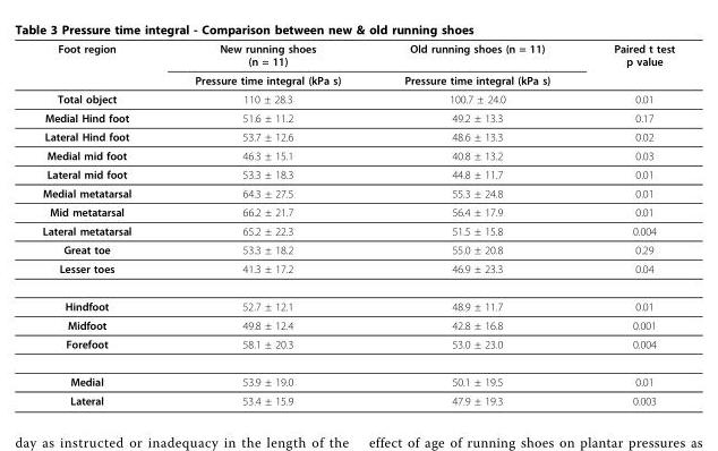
<table><thead><tr><td rowspan="2">Foot region</td><td rowspan="2">New running shoes (n = 11) Pressure time integral (kPa s)</td><td rowspan="2">Old running shoes (n = 11) Pressure time integral (kPa s)</td><td rowspan="2">Paired t test p value</td></tr><tr></tr></thead><tbody><tr><td>Total object</td><td>110 ± 28.3</td><td>100.7 ± 24.0</td><td>0.01</td></tr><tr><td>Medial Hind foot</td><td>51.6 ± 11.2</td><td>49.2 ± 13.3</td><td>0.17</td></tr><tr><td>Lateral Hind foot</td><td>53.7 ± 12.6</td><td>48.6 ± 13.3</td><td>0.02</td></tr><tr><td>Medial mid foot</td><td>46.3 ± 15.1</td><td>40.8 ± 13.2</td><td>0.03</td></tr><tr><td>Lateral mid foot</td><td>53.3 ± 18.3</td><td>44.8 ± 11.7</td><td>0.01</td></tr><tr><td>Medial metatarsal</td><td>64.3 ± 27.5</td><td>55.3 ± 24.8</td><td>0.01</td></tr><tr><td>Mid metatarsal</td><td>66.2 ± 21.7</td><td>56.4 ± 17.9</td><td>0.01</td></tr><tr><td>Lateral metatarsal</td><td>65.2 ± 22.3</td><td>51.5 ± 15.8</td><td>0.004</td></tr><tr><td>Great toe</td><td>53.3 ± 18.2</td><td>55.0 ± 20.8</td><td>0.29</td></tr><tr><td>Lesser toes</td><td>41.3 ± 17.2</td><td>46.9 ± 23.3</td><td>0.04</td></tr><tr><td>Hindfoot</td><td>52.7 ± 12.1</td><td>48.9 ± 11.7</td><td>0.01</td></tr><tr><td>Midfoot</td><td>49.8 ± 12.4</td><td>42.8 ± 16.8</td><td>0.001</td></tr><tr><td>Forefoot</td><td>58.1 ± 20.3</td><td>53.0 ± 23.0</td><td>0.004</td></tr><tr><td>Medial</td><td>53.9 ± 19.0</td><td>50.1 ± 19.5</td><td>0.01</td></tr><tr><td>Lateral</td><td>53.4 ± 15.9</td><td>47.9 ± 19.3</td><td>0.003</td></tr></tbody></table>